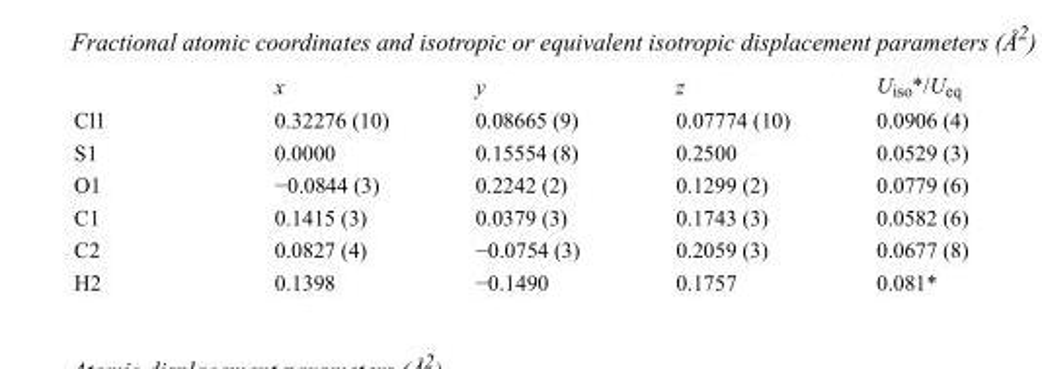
<table><thead><tr><td></td><td>x</td><td>y</td><td>z</td><td>U<sub>iso</sub>*/U<sub>eq</sub></td></tr></thead><tbody><tr><td>Cl1</td><td>0.32276 (10)</td><td>0.08665 (9)</td><td>0.07774 (10)</td><td>0.0906 (4)</td></tr><tr><td>S1</td><td>0.0000</td><td>0.15554 (8)</td><td>0.2500</td><td>0.0529 (3)</td></tr><tr><td>O1</td><td>−0.0844 (3)</td><td>0.2242 (2)</td><td>0.1299 (2)</td><td>0.0779 (6)</td></tr><tr><td>C1</td><td>0.1415 (3)</td><td>0.0379 (3)</td><td>0.1743 (3)</td><td>0.0582 (6)</td></tr><tr><td>C2</td><td>0.0827 (4)</td><td>−0.0754 (3)</td><td>0.2059 (3)</td><td>0.0677 (8)</td></tr><tr><td>H2</td><td>0.1398</td><td>−0.1490</td><td>0.1757</td><td>0.081*</td></tr></tbody></table>